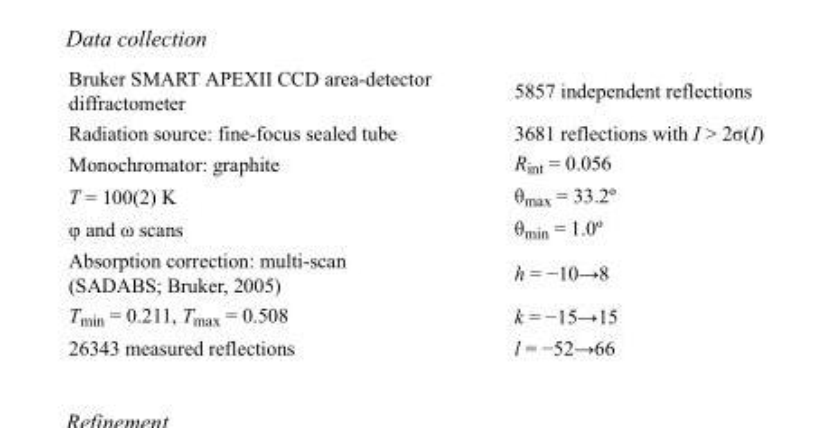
<table><tbody><tr><td>Bruker SMART APEXII CCD area-detector diffractometer</td><td>5857 independent reflections</td></tr><tr><td>Radiation source: fine-focus sealed tube</td><td>3681 reflections with I &gt; 2σ(I)</td></tr><tr><td>Monochromator: graphite</td><td>R<sub>int</sub> = 0.056</td></tr><tr><td>T = 100(2) K</td><td>θ<sub>max</sub> = 33.2º</td></tr><tr><td>φ and ω scans</td><td>θ<sub>min</sub> = 1.0º</td></tr><tr><td>Absorption correction: multi-scan (SADABS; Bruker, 2005)</td><td>h = −10→8</td></tr><tr><td>T<sub>min</sub> = 0.211, T<sub>max</sub> = 0.508</td><td>k = −15→15</td></tr><tr><td>26343 measured reflections</td><td>l = −52→66</td></tr></tbody></table>